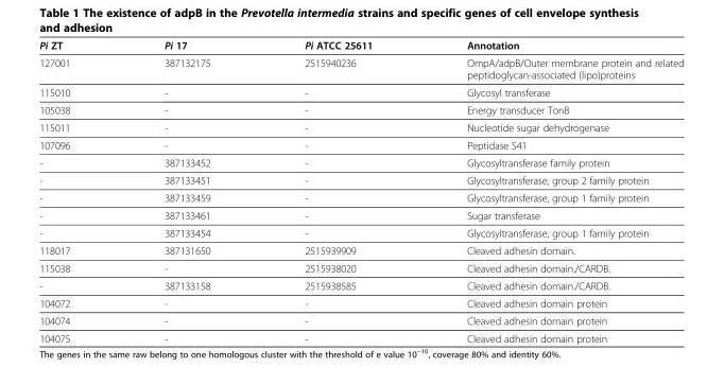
<table><thead><tr><td>Pi ZT</td><td>Pi 17</td><td>Pi ATCC 25611</td><td>Annotation</td></tr></thead><tbody><tr><td>127001</td><td>387132175</td><td>2515940236</td><td>OmpA/adpB/Outer membrane protein and related peptidoglycan-associated (lipo)proteins</td></tr><tr><td>115010</td><td>-</td><td>-</td><td>Glycosyl transferase</td></tr><tr><td>105038</td><td>-</td><td>-</td><td>Energy transducer TonB</td></tr><tr><td>115011</td><td>-</td><td>-</td><td>Nucleotide sugar dehydrogenase</td></tr><tr><td>107096</td><td>-</td><td>-</td><td>Peptidase S41</td></tr><tr><td>-</td><td>387133452</td><td>-</td><td>Glycosyltransferase family protein</td></tr><tr><td>-</td><td>387133451</td><td>-</td><td>Glycosyltransferase, group 2 family protein</td></tr><tr><td>-</td><td>387133459</td><td>-</td><td>Glycosyltransferase, group 1 family protein</td></tr><tr><td>-</td><td>387133461</td><td>-</td><td>Sugar transferase</td></tr><tr><td>-</td><td>387133454</td><td>-</td><td>Glycosyltransferase, group 1 family protein</td></tr><tr><td>118017</td><td>387131650</td><td>2515939909</td><td>Cleaved adhesin domain.</td></tr><tr><td>115038</td><td>-</td><td>2515938020</td><td>Cleaved adhesin domain./CARDB.</td></tr><tr><td>-</td><td>387133158</td><td>2515938585</td><td>Cleaved adhesin domain./CARDB.</td></tr><tr><td>104072</td><td>-</td><td>-</td><td>Cleaved adhesin domain protein</td></tr><tr><td>104074</td><td>-</td><td>-</td><td>Cleaved adhesin domain protein</td></tr><tr><td>104075</td><td>-</td><td>-</td><td>Cleaved adhesin domain protein</td></tr></tbody></table>